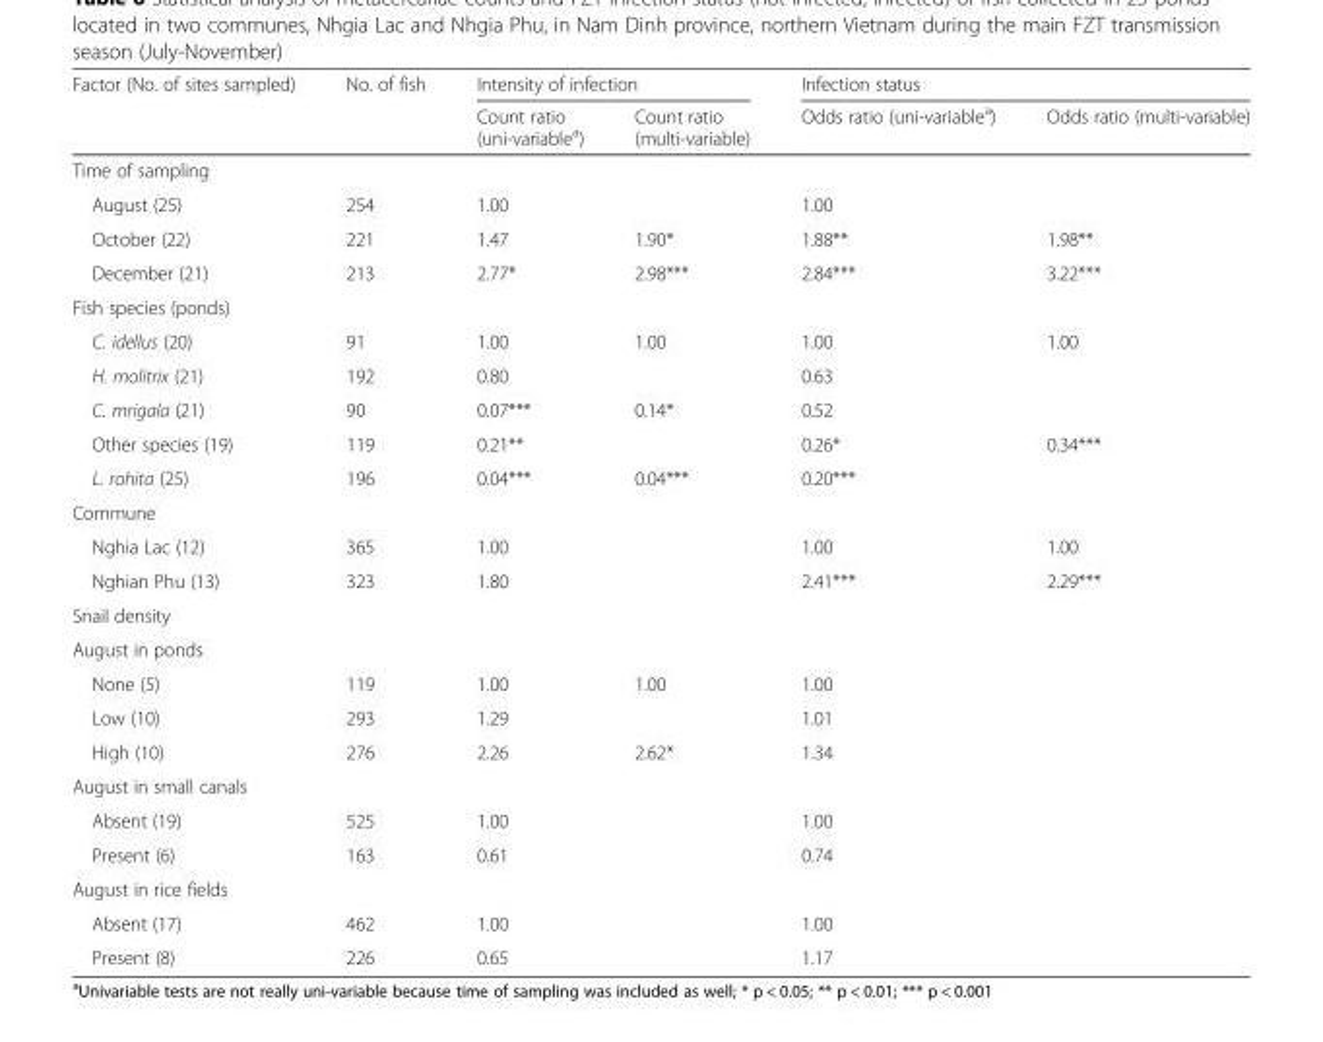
<table><thead><tr><td rowspan="2">Factor (No. of sites sampled)</td><td rowspan="2">No. of fish</td><td colspan="2">Intensity of infection</td><td colspan="2">Infection status</td></tr><tr><td>Count ratio (uni-variable<sup>a</sup>)</td><td>Count ratio (multi-variable)</td><td>Odds ratio (uni-variable<sup>a</sup>)</td><td>Odds ratio (multi-variable)</td></tr></thead><tbody><tr><td colspan="6">Time of sampling</td></tr><tr><td>August (25)</td><td>254</td><td>1.00</td><td></td><td>1.00</td><td></td></tr><tr><td>October (22)</td><td>221</td><td>1.47</td><td>1.90*</td><td>1.88**</td><td>1.98**</td></tr><tr><td>December (21)</td><td>213</td><td>2.77*</td><td>2.98***</td><td>2.84***</td><td>3.22***</td></tr><tr><td colspan="6">Fish species (ponds)</td></tr><tr><td>C. idellus (20)</td><td>91</td><td>1.00</td><td rowspan="2">1.00</td><td>1.00</td><td rowspan="3">1.00</td></tr><tr><td>H. molitrix (21)</td><td>192</td><td>0.80</td><td>0.63</td></tr><tr><td>C. mrigala (21)</td><td>90</td><td>0.07***</td><td rowspan="2">0.14*</td><td>0.52</td></tr><tr><td>Other species (19)</td><td>119</td><td>0.21**</td><td>0.26*</td><td rowspan="2">0.34***</td></tr><tr><td>L. rohita (25)</td><td>196</td><td>0.04***</td><td>0.04***</td><td>0.20***</td></tr><tr><td colspan="6">Commune</td></tr><tr><td>Nghia Lac (12)</td><td>365</td><td>1.00</td><td></td><td>1.00</td><td>1.00</td></tr><tr><td>Nghian Phu (13)</td><td>323</td><td>1.80</td><td></td><td>2.41***</td><td>2.29***</td></tr><tr><td colspan="6">Snail density</td></tr><tr><td colspan="6">August in ponds</td></tr><tr><td>None (5)</td><td>119</td><td>1.00</td><td rowspan="2">1.00</td><td>1.00</td><td></td></tr><tr><td>Low (10)</td><td>293</td><td>1.29</td><td>1.01</td><td></td></tr><tr><td>High (10)</td><td>276</td><td>2.26</td><td>2.62*</td><td>1.34</td><td></td></tr><tr><td colspan="6">August in small canals</td></tr><tr><td>Absent (19)</td><td>525</td><td>1.00</td><td></td><td>1.00</td><td></td></tr><tr><td>Present (6)</td><td>163</td><td>0.61</td><td></td><td>0.74</td><td></td></tr><tr><td colspan="6">August in rice fields</td></tr><tr><td>Absent (17)</td><td>462</td><td>1.00</td><td></td><td>1.00</td><td></td></tr><tr><td>Present (8)</td><td>226</td><td>0.65</td><td></td><td>1.17</td><td></td></tr></tbody></table>